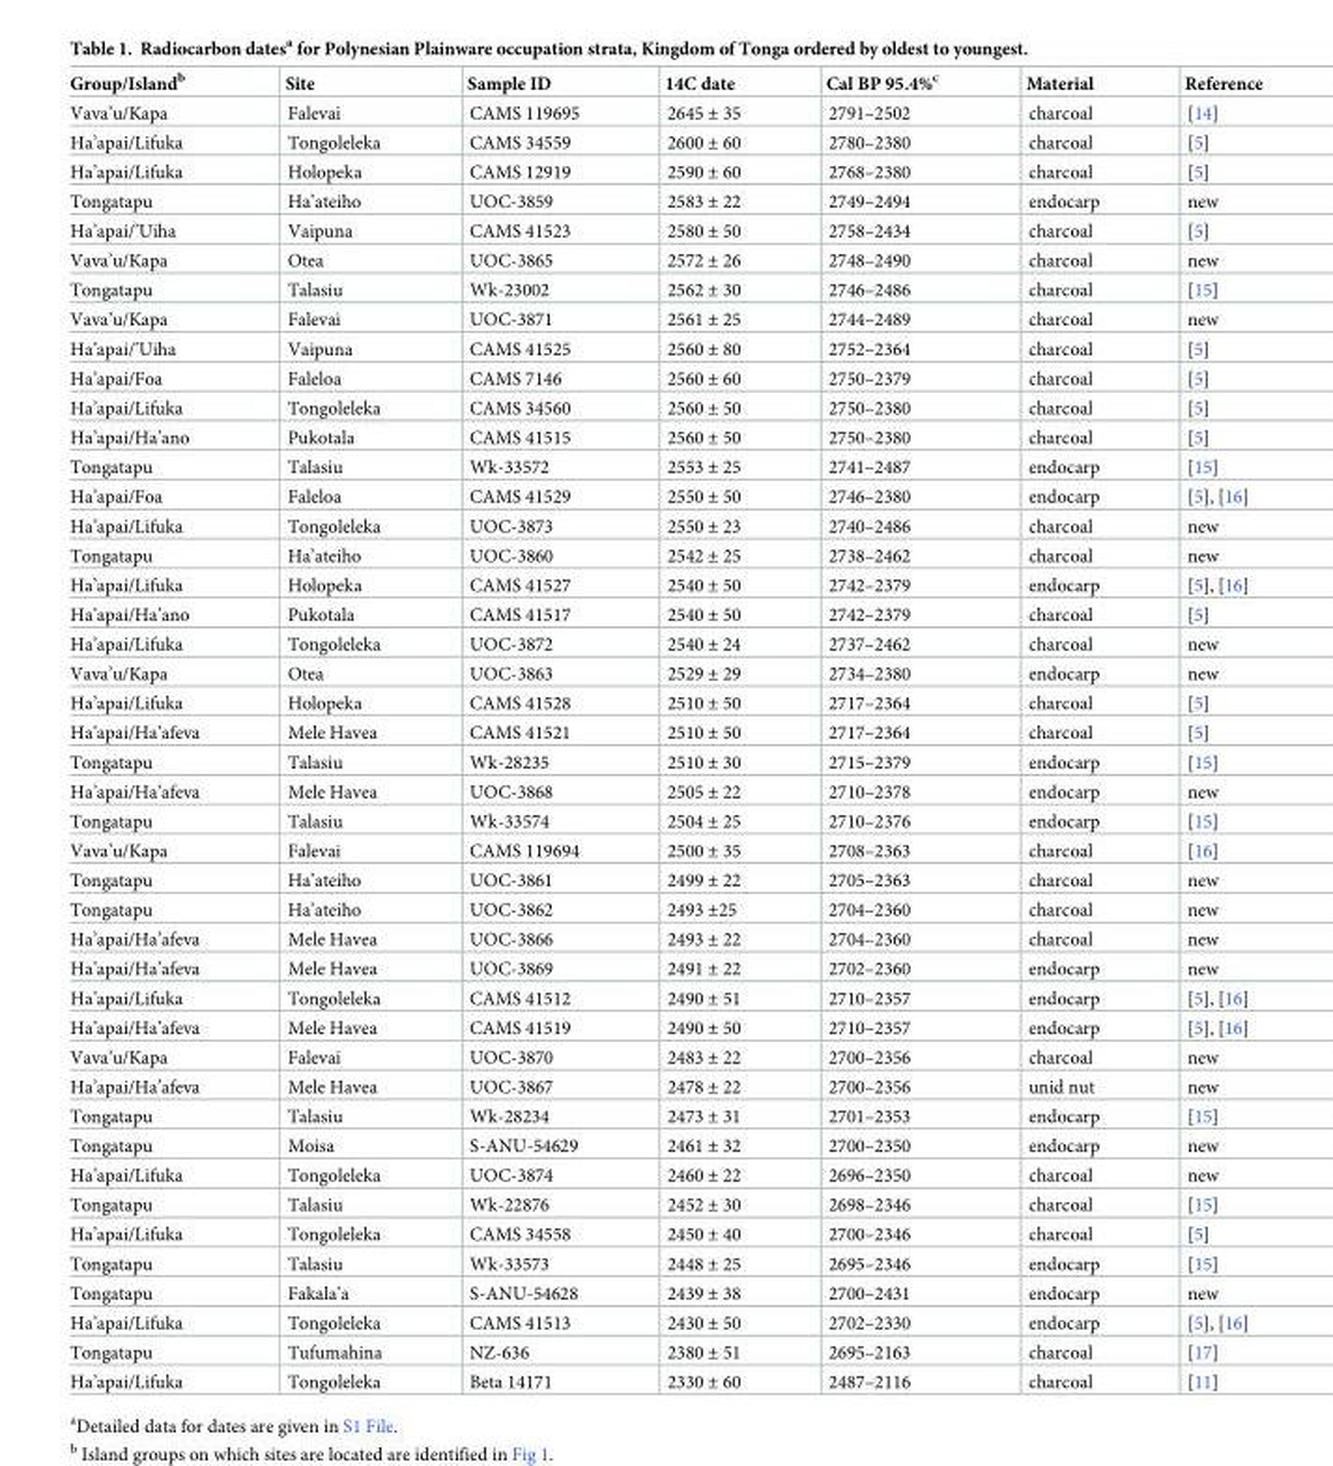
<table><thead><tr><td>Group/Island<sup>b</sup></td><td>Site</td><td>Sample ID</td><td>14C date</td><td>Cal BP 95.4%<sup>c</sup></td><td>Material</td><td>Reference</td></tr></thead><tbody><tr><td>Vava’u/Kapa</td><td>Falevai</td><td>CAMS 119695</td><td>2645 ± 35</td><td>2791–2502</td><td>charcoal</td><td>[14]</td></tr><tr><td>Ha’apai/Lifuka</td><td>Tongoleleka</td><td>CAMS 34559</td><td>2600 ± 60</td><td>2780–2380</td><td>charcoal</td><td>[5]</td></tr><tr><td>Ha’apai/Lifuka</td><td>Holopeka</td><td>CAMS 12919</td><td>2590 ± 60</td><td>2768–2380</td><td>charcoal</td><td>[5]</td></tr><tr><td>Tongatapu</td><td>Ha’ateiho</td><td>UOC-3859</td><td>2583 ± 22</td><td>2749–2494</td><td>endocarp</td><td>new</td></tr><tr><td>Ha’apai/’Uiha</td><td>Vaipuna</td><td>CAMS 41523</td><td>2580 ± 50</td><td>2758–2434</td><td>charcoal</td><td>[5]</td></tr><tr><td>Vava’u/Kapa</td><td>Otea</td><td>UOC-3865</td><td>2572 ± 26</td><td>2748–2490</td><td>charcoal</td><td>new</td></tr><tr><td>Tongatapu</td><td>Talasiu</td><td>Wk-23002</td><td>2562 ± 30</td><td>2746–2486</td><td>charcoal</td><td>[15]</td></tr><tr><td>Vava’u/Kapa</td><td>Falevai</td><td>UOC-3871</td><td>2561 ± 25</td><td>2744–2489</td><td>charcoal</td><td>new</td></tr><tr><td>Ha’apai/’Uiha</td><td>Vaipuna</td><td>CAMS 41525</td><td>2560 ± 80</td><td>2752–2364</td><td>charcoal</td><td>[5]</td></tr><tr><td>Ha’apai/Foa</td><td>Faleloa</td><td>CAMS 7146</td><td>2560 ± 60</td><td>2750–2379</td><td>charcoal</td><td>[5]</td></tr><tr><td>Ha’apai/Lifuka</td><td>Tongoleleka</td><td>CAMS 34560</td><td>2560 ± 50</td><td>2750–2380</td><td>charcoal</td><td>[5]</td></tr><tr><td>Ha’apai/Ha’ano</td><td>Pukotala</td><td>CAMS 41515</td><td>2560 ± 50</td><td>2750–2380</td><td>charcoal</td><td>[5]</td></tr><tr><td>Tongatapu</td><td>Talasiu</td><td>Wk-33572</td><td>2553 ± 25</td><td>2741–2487</td><td>endocarp</td><td>[15]</td></tr><tr><td>Ha’apai/Foa</td><td>Faleloa</td><td>CAMS 41529</td><td>2550 ± 50</td><td>2746–2380</td><td>endocarp</td><td>[5], [16]</td></tr><tr><td>Ha’apai/Lifuka</td><td>Tongoleleka</td><td>UOC-3873</td><td>2550 ± 23</td><td>2740–2486</td><td>charcoal</td><td>new</td></tr><tr><td>Tongatapu</td><td>Ha’ateiho</td><td>UOC-3860</td><td>2542 ± 25</td><td>2738–2462</td><td>charcoal</td><td>new</td></tr><tr><td>Ha’apai/Lifuka</td><td>Holopeka</td><td>CAMS 41527</td><td>2540 ± 50</td><td>2742–2379</td><td>endocarp</td><td>[5], [16]</td></tr><tr><td>Ha’apai/Ha’ano</td><td>Pukotala</td><td>CAMS 41517</td><td>2540 ± 50</td><td>2742–2379</td><td>charcoal</td><td>[5]</td></tr><tr><td>Ha’apai/Lifuka</td><td>Tongoleleka</td><td>UOC-3872</td><td>2540 ± 24</td><td>2737–2462</td><td>charcoal</td><td>new</td></tr><tr><td>Vava’u/Kapa</td><td>Otea</td><td>UOC-3863</td><td>2529 ± 29</td><td>2734–2380</td><td>endocarp</td><td>new</td></tr><tr><td>Ha’apai/Lifuka</td><td>Holopeka</td><td>CAMS 41528</td><td>2510 ± 50</td><td>2717–2364</td><td>charcoal</td><td>[5]</td></tr><tr><td>Ha’apai/Ha’afeva</td><td>Mele Havea</td><td>CAMS 41521</td><td>2510 ± 50</td><td>2717–2364</td><td>charcoal</td><td>[5]</td></tr><tr><td>Tongatapu</td><td>Talasiu</td><td>Wk-28235</td><td>2510 ± 30</td><td>2715–2379</td><td>endocarp</td><td>[15]</td></tr><tr><td>Ha’apai/Ha’afeva</td><td>Mele Havea</td><td>UOC-3868</td><td>2505 ± 22</td><td>2710–2378</td><td>endocarp</td><td>new</td></tr><tr><td>Tongatapu</td><td>Talasiu</td><td>Wk-33574</td><td>2504 ± 25</td><td>2710–2376</td><td>endocarp</td><td>[15]</td></tr><tr><td>Vava’u/Kapa</td><td>Falevai</td><td>CAMS 119694</td><td>2500 ± 35</td><td>2708–2363</td><td>charcoal</td><td>[16]</td></tr><tr><td>Tongatapu</td><td>Ha’ateiho</td><td>UOC-3861</td><td>2499 ± 22</td><td>2705–2363</td><td>charcoal</td><td>new</td></tr><tr><td>Tongatapu</td><td>Ha’ateiho</td><td>UOC-3862</td><td>2493 ±25</td><td>2704–2360</td><td>charcoal</td><td>new</td></tr><tr><td>Ha’apai/Ha’afeva</td><td>Mele Havea</td><td>UOC-3866</td><td>2493 ± 22</td><td>2704–2360</td><td>charcoal</td><td>new</td></tr><tr><td>Ha’apai/Ha’afeva</td><td>Mele Havea</td><td>UOC-3869</td><td>2491 ± 22</td><td>2702–2360</td><td>endocarp</td><td>new</td></tr><tr><td>Ha’apai/Lifuka</td><td>Tongoleleka</td><td>CAMS 41512</td><td>2490 ± 51</td><td>2710–2357</td><td>endocarp</td><td>[5], [16]</td></tr><tr><td>Ha’apai/Ha’afeva</td><td>Mele Havea</td><td>CAMS 41519</td><td>2490 ± 50</td><td>2710–2357</td><td>endocarp</td><td>[5], [16]</td></tr><tr><td>Vava’u/Kapa</td><td>Falevai</td><td>UOC-3870</td><td>2483 ± 22</td><td>2700–2356</td><td>charcoal</td><td>new</td></tr><tr><td>Ha’apai/Ha’afeva</td><td>Mele Havea</td><td>UOC-3867</td><td>2478 ± 22</td><td>2700–2356</td><td>unid nut</td><td>new</td></tr><tr><td>Tongatapu</td><td>Talasiu</td><td>Wk-28234</td><td>2473 ± 31</td><td>2701–2353</td><td>endocarp</td><td>[15]</td></tr><tr><td>Tongatapu</td><td>Moisa</td><td>S-ANU-54629</td><td>2461 ± 32</td><td>2700–2350</td><td>endocarp</td><td>new</td></tr><tr><td>Ha’apai/Lifuka</td><td>Tongoleleka</td><td>UOC-3874</td><td>2460 ± 22</td><td>2696–2350</td><td>charcoal</td><td>new</td></tr><tr><td>Tongatapu</td><td>Talasiu</td><td>Wk-22876</td><td>2452 ± 30</td><td>2698–2346</td><td>charcoal</td><td>[15]</td></tr><tr><td>Ha’apai/Lifuka</td><td>Tongoleleka</td><td>CAMS 34558</td><td>2450 ± 40</td><td>2700–2346</td><td>charcoal</td><td>[5]</td></tr><tr><td>Tongatapu</td><td>Talasiu</td><td>Wk-33573</td><td>2448 ± 25</td><td>2695–2346</td><td>endocarp</td><td>[15]</td></tr><tr><td>Tongatapu</td><td>Fakala’a</td><td>S-ANU-54628</td><td>2439 ± 38</td><td>2700–2431</td><td>endocarp</td><td>new</td></tr><tr><td>Ha’apai/Lifuka</td><td>Tongoleleka</td><td>CAMS 41513</td><td>2430 ± 50</td><td>2702–2330</td><td>endocarp</td><td>[5], [16]</td></tr><tr><td>Tongatapu</td><td>Tufumahina</td><td>NZ-636</td><td>2380 ± 51</td><td>2695–2163</td><td>charcoal</td><td>[17]</td></tr><tr><td>Ha’apai/Lifuka</td><td>Tongoleleka</td><td>Beta 14171</td><td>2330 ± 60</td><td>2487–2116</td><td>charcoal</td><td>[11]</td></tr></tbody></table>